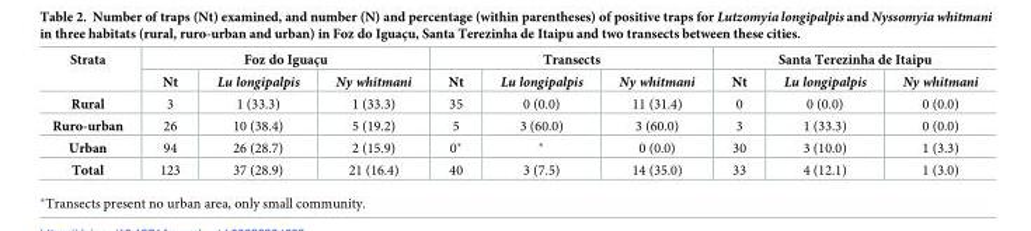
<table><thead><tr><td rowspan="2">Strata</td><td colspan="3">Foz do Iguac¸u</td><td colspan="3">Transects</td><td colspan="3">Santa Terezinha de Itaipu</td></tr><tr><td>Nt</td><td>Lu longipalpis</td><td>Ny whitmani</td><td>Nt</td><td>Lu longipalpis</td><td>Ny whitmani</td><td>Nt</td><td>Lu longipalpis</td><td>Ny whitmani</td></tr></thead><tbody><tr><td>Rural</td><td>3</td><td>1 (33.3)</td><td>1 (33.3)</td><td>35</td><td>0 (0.0)</td><td>11 (31.4)</td><td>0</td><td>0 (0.0)</td><td>0 (0.0)</td></tr><tr><td>Ruro-urban</td><td>26</td><td>10 (38.4)</td><td>5 (19.2)</td><td>5</td><td>3 (60.0)</td><td>3 (60.0)</td><td>3</td><td>1 (33.3)</td><td>0 (0.0)</td></tr><tr><td>Urban</td><td>94</td><td>26 (28.7)</td><td>2 (15.9)</td><td>0*</td><td>*</td><td>0 (0.0)</td><td>30</td><td>3 (10.0)</td><td>1 (3.3)</td></tr><tr><td>Total</td><td>123</td><td>37 (28.9)</td><td>21 (16.4)</td><td>40</td><td>3 (7.5)</td><td>14 (35.0)</td><td>33</td><td>4 (12.1)</td><td>1 (3.0)</td></tr></tbody></table>